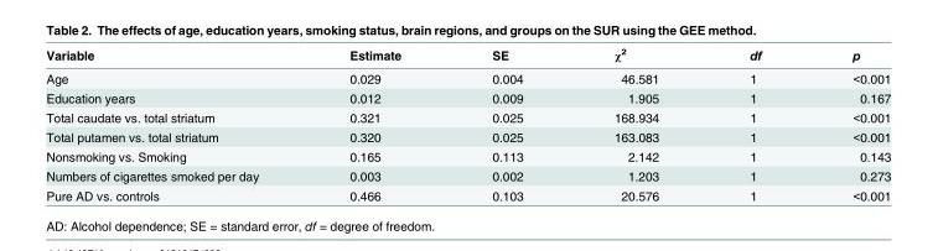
<table><thead><tr><td>Variable</td><td>Estimate</td><td>SE</td><td>χ<sup>2</sup></td><td>df</td><td>p</td></tr></thead><tbody><tr><td>Age</td><td>0.029</td><td>0.004</td><td>46.581</td><td>1</td><td>&lt;0.001</td></tr><tr><td>Education years</td><td>0.012</td><td>0.009</td><td>1.905</td><td>1</td><td>0.167</td></tr><tr><td>Total caudate vs. total striatum</td><td>0.321</td><td>0.025</td><td>168.934</td><td>1</td><td>&lt;0.001</td></tr><tr><td>Total putamen vs. total striatum</td><td>0.320</td><td>0.025</td><td>163.083</td><td>1</td><td>&lt;0.001</td></tr><tr><td>Nonsmoking vs. Smoking</td><td>0.165</td><td>0.113</td><td>2.142</td><td>1</td><td>0.143</td></tr><tr><td>Numbers of cigarettes smoked per day</td><td>0.003</td><td>0.002</td><td>1.203</td><td>1</td><td>0.273</td></tr><tr><td>Pure AD vs. controls</td><td>0.466</td><td>0.103</td><td>20.576</td><td>1</td><td>&lt;0.001</td></tr></tbody></table>